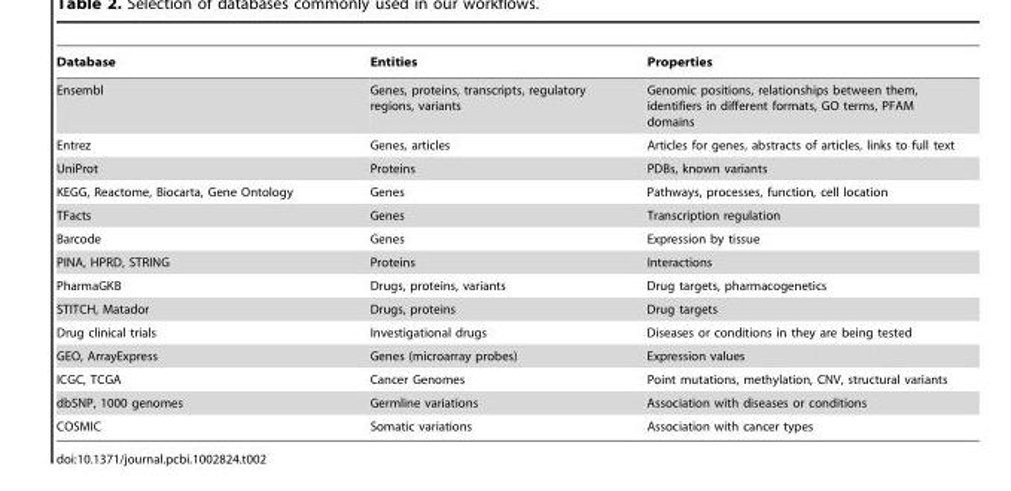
<table><thead><tr><td>Database</td><td>Entities</td><td>Properties</td></tr></thead><tbody><tr><td>Ensembl</td><td>Genes, proteins, transcripts, regulatory regions, variants</td><td>Genomic positions, relationships between them, identifiers in different formats, GO terms, PFAM domains</td></tr><tr><td>Entrez</td><td>Genes, articles</td><td>Articles for genes, abstracts of articles, links to full text</td></tr><tr><td>UniProt</td><td>Proteins</td><td>PDBs, known variants</td></tr><tr><td>KEGG, Reactome, Biocarta, Gene Ontology</td><td>Genes</td><td>Pathways, processes, function, cell location</td></tr><tr><td>TFacts</td><td>Genes</td><td>Transcription regulation</td></tr><tr><td>Barcode</td><td>Genes</td><td>Expression by tissue</td></tr><tr><td>PINA, HPRD, STRING</td><td>Proteins</td><td>Interactions</td></tr><tr><td>PharmaGKB</td><td>Drugs, proteins, variants</td><td>Drug targets, pharmacogenetics</td></tr><tr><td>STITCH, Matador</td><td>Drugs, proteins</td><td>Drug targets</td></tr><tr><td>Drug clinical trials</td><td>Investigational drugs</td><td>Diseases or conditions in they are being tested</td></tr><tr><td>GEO, ArrayExpress</td><td>Genes (microarray probes)</td><td>Expression values</td></tr><tr><td>ICGC, TCGA</td><td>Cancer Genomes</td><td>Point mutations, methylation, CNV, structural variants</td></tr><tr><td>dbSNP, 1000 genomes</td><td>Germline variations</td><td>Association with diseases or conditions</td></tr><tr><td>COSMIC</td><td>Somatic variations</td><td>Association with cancer types</td></tr></tbody></table>